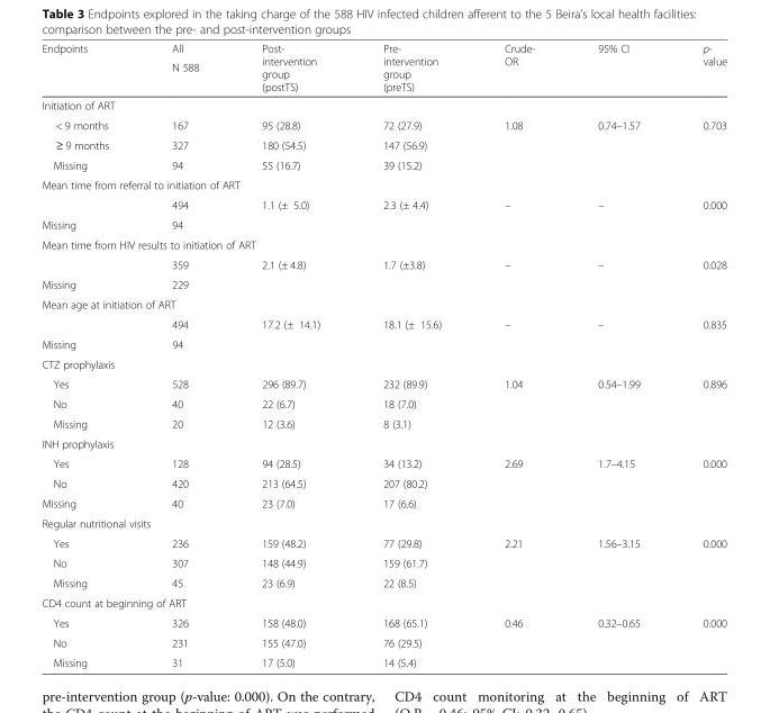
<table><thead><tr><td rowspan="2">Endpoints</td><td rowspan="2">All N 588</td><td rowspan="2">Post- intervention group (postTS)</td><td rowspan="2">Pre- intervention group (preTS)</td><td rowspan="2">Crude- OR</td><td rowspan="2">95% CI</td><td rowspan="2">p- value</td></tr><tr></tr></thead><tbody><tr><td colspan="7">Initiation of ART</td></tr><tr><td>&lt; 9 months</td><td>167</td><td>95 (28.8)</td><td>72 (27.9)</td><td rowspan="2">1.08</td><td rowspan="2">0.74–1.57</td><td rowspan="2">0.703</td></tr><tr><td>≥ 9 months</td><td>327</td><td>180 (54.5)</td><td>147 (56.9)</td></tr><tr><td>Missing</td><td>94</td><td>55 (16.7)</td><td>39 (15.2)</td><td></td><td></td><td></td></tr><tr><td colspan="7">Mean time from referral to initiation of ART</td></tr><tr><td></td><td>494</td><td>1.1 (± 5.0)</td><td>2.3 (± 4.4)</td><td>–</td><td>–</td><td rowspan="2">0.000</td></tr><tr><td>Missing</td><td>94</td><td></td><td></td><td></td><td></td></tr><tr><td colspan="7">Mean time from HIV results to initiation of ART</td></tr><tr><td></td><td>359</td><td>2.1 (± 4.8)</td><td>1.7 (±3.8)</td><td>–</td><td>–</td><td rowspan="2">0.028</td></tr><tr><td>Missing</td><td>229</td><td></td><td></td><td></td><td></td></tr><tr><td colspan="7">Mean age at initiation of ART</td></tr><tr><td></td><td>494</td><td>17.2 (± 14.1)</td><td>18.1 (± 15.6)</td><td>–</td><td>–</td><td rowspan="2">0.835</td></tr><tr><td>Missing</td><td>94</td><td></td><td></td><td></td><td></td></tr><tr><td colspan="7">CTZ prophylaxis</td></tr><tr><td>Yes</td><td>528</td><td>296 (89.7)</td><td>232 (89.9)</td><td rowspan="2">1.04</td><td rowspan="2">0.54–1.99</td><td rowspan="2">0.896</td></tr><tr><td>No</td><td>40</td><td>22 (6.7)</td><td>18 (7.0)</td></tr><tr><td>Missing</td><td>20</td><td>12 (3.6)</td><td>8 (3.1)</td><td></td><td></td><td></td></tr><tr><td colspan="7">INH prophylaxis</td></tr><tr><td>Yes</td><td>128</td><td>94 (28.5)</td><td>34 (13.2)</td><td rowspan="2">2.69</td><td rowspan="2">1.7–4.15</td><td rowspan="2">0.000</td></tr><tr><td>No</td><td>420</td><td>213 (64.5)</td><td>207 (80.2)</td></tr><tr><td>Missing</td><td>40</td><td>23 (7.0)</td><td>17 (6.6)</td><td></td><td></td><td></td></tr><tr><td colspan="7">Regular nutritional visits</td></tr><tr><td>Yes</td><td>236</td><td>159 (48.2)</td><td>77 (29.8)</td><td rowspan="2">2.21</td><td rowspan="2">1.56–3.15</td><td rowspan="2">0.000</td></tr><tr><td>No</td><td>307</td><td>148 (44.9)</td><td>159 (61.7)</td></tr><tr><td>Missing</td><td>45</td><td>23 (6.9)</td><td>22 (8.5)</td><td></td><td></td><td></td></tr><tr><td colspan="7">CD4 count at beginning of ART</td></tr><tr><td>Yes</td><td>326</td><td>158 (48.0)</td><td>168 (65.1)</td><td rowspan="2">0.46</td><td rowspan="2">0.32–0.65</td><td rowspan="3">0.000</td></tr><tr><td>No</td><td>231</td><td>155 (47.0)</td><td>76 (29.5)</td></tr><tr><td>Missing</td><td>31</td><td>17 (5.0)</td><td>14 (5.4)</td><td></td><td></td></tr></tbody></table>